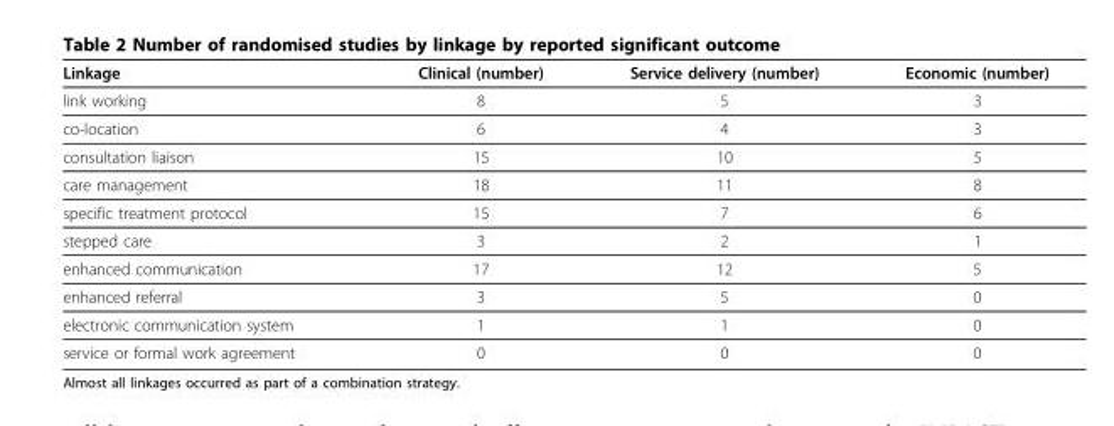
<table><thead><tr><td>Linkage</td><td>Clinical (number)</td><td>Service delivery (number)</td><td>Economic (number)</td></tr></thead><tbody><tr><td>link working</td><td>8</td><td>5</td><td>3</td></tr><tr><td>co-location</td><td>6</td><td>4</td><td>3</td></tr><tr><td>consultation liaison</td><td>15</td><td>10</td><td>5</td></tr><tr><td>care management</td><td>18</td><td>11</td><td>8</td></tr><tr><td>specific treatment protocol</td><td>15</td><td>7</td><td>6</td></tr><tr><td>stepped care</td><td>3</td><td>2</td><td>1</td></tr><tr><td>enhanced communication</td><td>17</td><td>12</td><td>5</td></tr><tr><td>enhanced referral</td><td>3</td><td>5</td><td>0</td></tr><tr><td>electronic communication system</td><td>1</td><td>1</td><td>0</td></tr><tr><td>service or formal work agreement</td><td>0</td><td>0</td><td>0</td></tr></tbody></table>